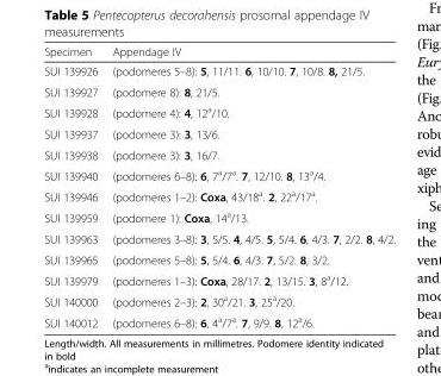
<table><thead><tr><td>Specimen</td><td>Appendage IV</td></tr></thead><tbody><tr><td>SUI 139926</td><td>(podomeres 5–8): 5, 11/11. 6, 10/10. 7, 10/8. 8, 21/5.</td></tr><tr><td>SUI 139927</td><td>(podomere 8): 8, 21/5.</td></tr><tr><td>SUI 139928</td><td>(podomere 4): 4, 12<sup>a</sup>/10.</td></tr><tr><td>SUI 139937</td><td>(podomere 3): 3, 13/6.</td></tr><tr><td>SUI 139938</td><td>(podomere 3): 3, 16/7.</td></tr><tr><td>SUI 139940</td><td>(podomeres 6–8): 6, 7<sup>a</sup>/7<sup>a</sup>. 7, 12/10. 8, 13<sup>a</sup>/4.</td></tr><tr><td>SUI 139946</td><td>(podomeres 1–2): Coxa, 43/18<sup>a</sup>. 2, 22<sup>a</sup>/17<sup>a</sup>.</td></tr><tr><td>SUI 139959</td><td>(podomere 1): Coxa, 14<sup>a</sup>/13.</td></tr><tr><td>SUI 139963</td><td>(podomeres 3–8): 3, 5/5. 4, 4/5. 5, 5/4. 6, 4/3. 7, 2/2. 8, 4/2.</td></tr><tr><td>SUI 139965</td><td>(podomeres 5–8): 5, 5/4. 6, 4/3. 7, 5/2. 8, 3/2.</td></tr><tr><td>SUI 139979</td><td>(podomeres 1–3): Coxa, 28/17. 2, 13/15. 3, 8<sup>a</sup>/12.</td></tr><tr><td>SUI 140000</td><td>(podomeres 2–3): 2, 30<sup>a</sup>/21. 3, 25<sup>a</sup>/20.</td></tr><tr><td>SUI 140012</td><td>(podomeres 6–8): 6, 4<sup>a</sup>/7<sup>a</sup>. 7, 9/9. 8, 12<sup>a</sup>/6.</td></tr></tbody></table>